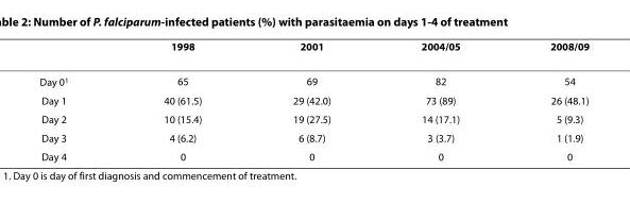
<table><thead><tr><td></td><td>1998</td><td>2001</td><td>2004/05</td><td>2008/09</td></tr></thead><tbody><tr><td>Day 0<sup>1</sup></td><td>65</td><td>69</td><td>82</td><td>54</td></tr><tr><td>Day 1</td><td>40 (61.5)</td><td>29 (42.0)</td><td>73 (89)</td><td>26 (48.1)</td></tr><tr><td>Day 2</td><td>10 (15.4)</td><td>19 (27.5)</td><td>14 (17.1)</td><td>5 (9.3)</td></tr><tr><td>Day 3</td><td>4 (6.2)</td><td>6 (8.7)</td><td>3 (3.7)</td><td>1 (1.9)</td></tr><tr><td>Day 4</td><td>0</td><td>0</td><td>0</td><td>0</td></tr></tbody></table>